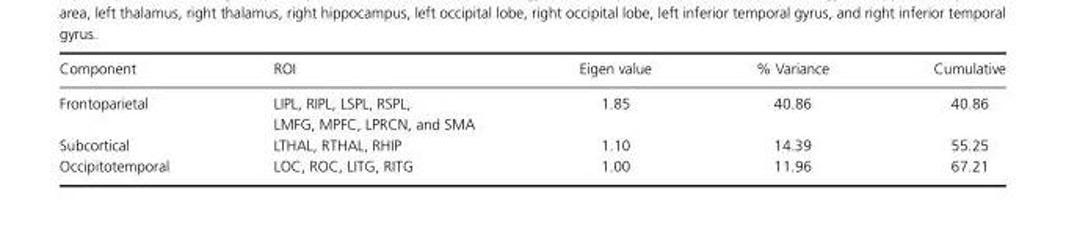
<table><thead><tr><td>Component</td><td>ROI</td><td>Eigen value</td><td>% Variance</td><td>Cumulative</td></tr></thead><tbody><tr><td>Frontoparietal</td><td>LIPL, RIPL, LSPL, RSPL, LMFG, MPFC, LPRCN, and SMA</td><td>1.85</td><td>40.86</td><td>40.86</td></tr><tr><td>Subcortical</td><td>LTHAL, RTHAL, RHIP</td><td>1.10</td><td>14.39</td><td>55.25</td></tr><tr><td>Occipitotemporal</td><td>LOC, ROC, LITG, RITG</td><td>1.00</td><td>11.96</td><td>67.21</td></tr></tbody></table>